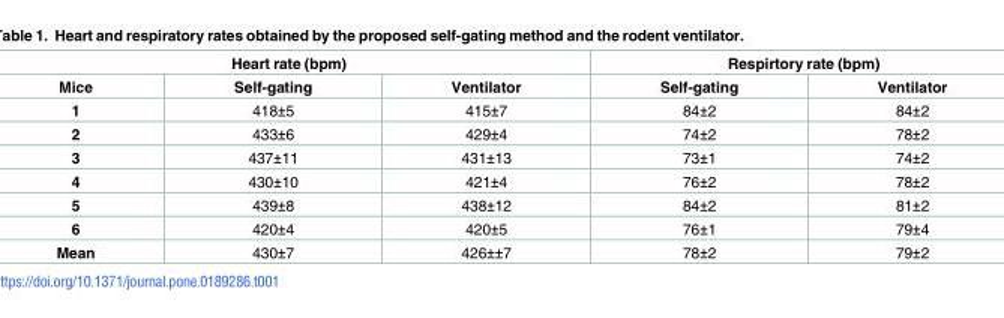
<table><thead><tr><td colspan="3">Heart rate (bpm)</td><td colspan="2">Respirtory rate (bpm)</td></tr><tr><td>Mice</td><td>Self-gating</td><td>Ventilator</td><td>Self-gating</td><td>Ventilator</td></tr></thead><tbody><tr><td>1</td><td>418±5</td><td>415±7</td><td>84±2</td><td>84±2</td></tr><tr><td>2</td><td>433±6</td><td>429±4</td><td>74±2</td><td>78±2</td></tr><tr><td>3</td><td>437±11</td><td>431±13</td><td>73±1</td><td>74±2</td></tr><tr><td>4</td><td>430±10</td><td>421±4</td><td>76±2</td><td>78±2</td></tr><tr><td>5</td><td>439±8</td><td>438±12</td><td>84±2</td><td>81±2</td></tr><tr><td>6</td><td>420±4</td><td>420±5</td><td>76±1</td><td>79±4</td></tr><tr><td>Mean</td><td>430±7</td><td>426±±7</td><td>78±2</td><td>79±2</td></tr></tbody></table>